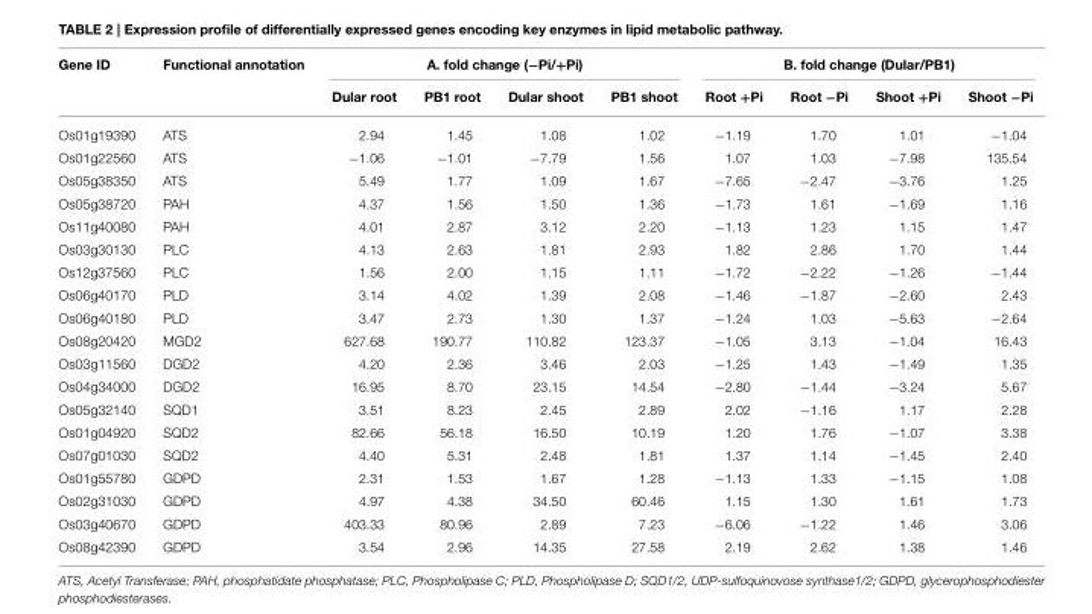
<table><thead><tr><td rowspan="2">Gene ID</td><td rowspan="2">Functional annotation</td><td colspan="4">A. fold change (−Pi/+Pi)</td><td colspan="4">B. fold change (Dular/PB1)</td></tr><tr><td>Dular root</td><td>PB1 root</td><td>Dular shoot</td><td>PB1 shoot</td><td>Root +Pi</td><td>Root −Pi</td><td>Shoot +Pi</td><td>Shoot −Pi</td></tr></thead><tbody><tr><td>Os01g19390</td><td>ATS</td><td>2.94</td><td>1.45</td><td>1.08</td><td>1.02</td><td>−1.19</td><td>1.70</td><td>1.01</td><td>−1.04</td></tr><tr><td>Os01g22560</td><td>ATS</td><td>−1.06</td><td>−1.01</td><td>−7.79</td><td>1.56</td><td>1.07</td><td>1.03</td><td>−7.98</td><td>135.54</td></tr><tr><td>Os05g38350</td><td>ATS</td><td>5.49</td><td>1.77</td><td>1.09</td><td>1.67</td><td>−7.65</td><td>−2.47</td><td>−3.76</td><td>1.25</td></tr><tr><td>Os05g38720</td><td>PAH</td><td>4.37</td><td>1.56</td><td>1.50</td><td>1.36</td><td>−1.73</td><td>1.61</td><td>−1.69</td><td>1.16</td></tr><tr><td>Os11g40080</td><td>PAH</td><td>4.01</td><td>2.87</td><td>3.12</td><td>2.20</td><td>−1.13</td><td>1.23</td><td>1.15</td><td>1.47</td></tr><tr><td>Os03g30130</td><td>PLC</td><td>4.13</td><td>2.63</td><td>1.81</td><td>2.93</td><td>1.82</td><td>2.86</td><td>1.70</td><td>1.44</td></tr><tr><td>Os12g37560</td><td>PLC</td><td>1.56</td><td>2.00</td><td>1.15</td><td>1.11</td><td>−1.72</td><td>−2.22</td><td>−1.26</td><td>−1.44</td></tr><tr><td>Os06g40170</td><td>PLD</td><td>3.14</td><td>4.02</td><td>1.39</td><td>2.08</td><td>−1.46</td><td>−1.87</td><td>−2.60</td><td>2.43</td></tr><tr><td>Os06g40180</td><td>PLD</td><td>3.47</td><td>2.73</td><td>1.30</td><td>1.37</td><td>−1.24</td><td>1.03</td><td>−5.63</td><td>−2.64</td></tr><tr><td>Os08g20420</td><td>MGD2</td><td>627.68</td><td>190.77</td><td>110.82</td><td>123.37</td><td>−1.05</td><td>3.13</td><td>−1.04</td><td>16.43</td></tr><tr><td>Os03g11560</td><td>DGD2</td><td>4.20</td><td>2.36</td><td>3.46</td><td>2.03</td><td>−1.25</td><td>1.43</td><td>−1.49</td><td>1.35</td></tr><tr><td>Os04g34000</td><td>DGD2</td><td>16.95</td><td>8.70</td><td>23.15</td><td>14.54</td><td>−2.80</td><td>−1.44</td><td>−3.24</td><td>5.67</td></tr><tr><td>Os05g32140</td><td>SQD1</td><td>3.51</td><td>8.23</td><td>2.45</td><td>2.89</td><td>2.02</td><td>−1.16</td><td>1.17</td><td>2.28</td></tr><tr><td>Os01g04920</td><td>SQD2</td><td>82.66</td><td>56.18</td><td>16.50</td><td>10.19</td><td>1.20</td><td>1.76</td><td>−1.07</td><td>3.38</td></tr><tr><td>Os07g01030</td><td>SQD2</td><td>4.40</td><td>5.31</td><td>2.48</td><td>1.81</td><td>1.37</td><td>1.14</td><td>−1.45</td><td>2.40</td></tr><tr><td>Os01g55780</td><td>GDPD</td><td>2.31</td><td>1.53</td><td>1.67</td><td>1.28</td><td>−1.13</td><td>1.33</td><td>−1.15</td><td>1.08</td></tr><tr><td>Os02g31030</td><td>GDPD</td><td>4.97</td><td>4.38</td><td>34.50</td><td>60.46</td><td>1.15</td><td>1.30</td><td>1.61</td><td>1.73</td></tr><tr><td>Os03g40670</td><td>GDPD</td><td>403.33</td><td>80.96</td><td>2.89</td><td>7.23</td><td>−6.06</td><td>−1.22</td><td>1.46</td><td>3.06</td></tr><tr><td>Os08g42390</td><td>GDPD</td><td>3.54</td><td>2.96</td><td>14.35</td><td>27.58</td><td>2.19</td><td>2.62</td><td>1.38</td><td>1.46</td></tr></tbody></table>